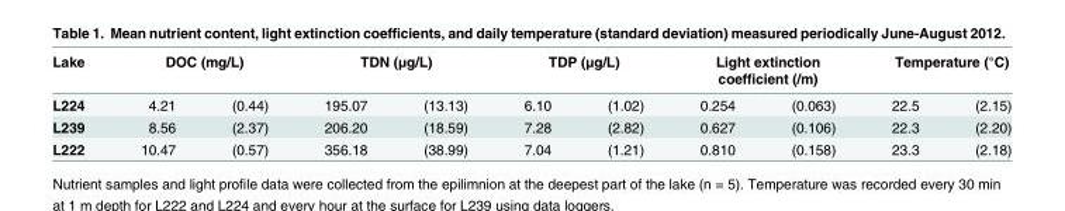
<table><thead><tr><td rowspan="2">Lake L224</td><td colspan="2">DOC (mg/L)</td><td colspan="2">TDN (μg/L)</td><td colspan="2">TDP (μg/L)</td><td colspan="2">Light extinction coefficient (/m)</td><td colspan="2">Temperature (°C)</td></tr><tr><td>4.21</td><td>(0.44)</td><td>195.07</td><td>(13.13)</td><td>6.10</td><td>(1.02)</td><td>0.254</td><td>(0.063)</td><td>22.5</td><td>(2.15)</td></tr></thead><tbody><tr><td>L239</td><td>8.56</td><td>(2.37)</td><td>206.20</td><td>(18.59)</td><td>7.28</td><td>(2.82)</td><td>0.627</td><td>(0.106)</td><td>22.3</td><td>(2.20)</td></tr><tr><td>L222</td><td>10.47</td><td>(0.57)</td><td>356.18</td><td>(38.99)</td><td>7.04</td><td>(1.21)</td><td>0.810</td><td>(0.158)</td><td>23.3</td><td>(2.18)</td></tr></tbody></table>